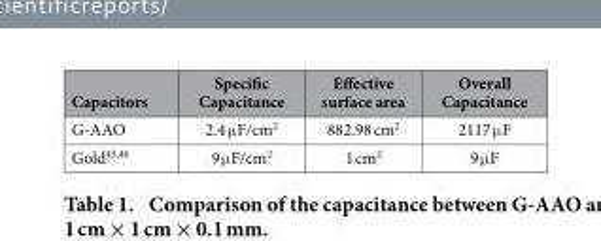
<table><thead><tr><td>Capacitors</td><td>Specific Capacitance</td><td>Effective surface area</td><td>Overall Capacitance</td></tr></thead><tbody><tr><td>G-AAO</td><td>2.4 μ F/cm<sup>2</sup></td><td>882.98 cm<sup>2</sup></td><td>2117 μ F</td></tr><tr><td>Gold<sup>45</sup>,<sup>46</sup></td><td>9 μ F/cm<sup>2</sup></td><td>1 cm<sup>2</sup></td><td>9 μ F</td></tr></tbody></table>